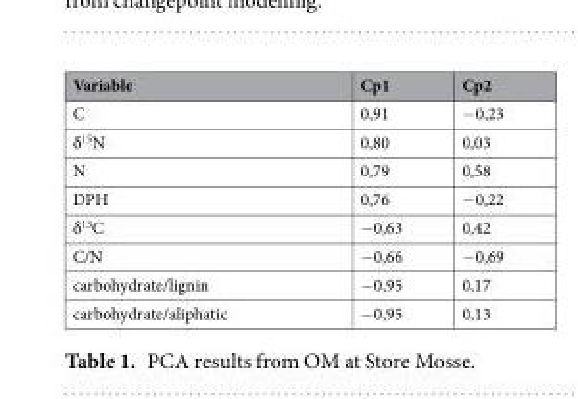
<table><thead><tr><td>Variable</td><td>Cp1</td><td>Cp2</td></tr></thead><tbody><tr><td>C</td><td>0,91</td><td>−0,23</td></tr><tr><td>δ<sup>15</sup>N</td><td>0,80</td><td>0,03</td></tr><tr><td>N</td><td>0,79</td><td>0,58</td></tr><tr><td>DPH</td><td>0,76</td><td>−0,22</td></tr><tr><td>δ<sup>13</sup>C</td><td>−0,63</td><td>0,42</td></tr><tr><td>C/N</td><td>−0,66</td><td>−0,69</td></tr><tr><td>carbohydrate/lignin</td><td>−0,95</td><td>0,17</td></tr><tr><td>carbohydrate/aliphatic</td><td>−0,95</td><td>0,13</td></tr></tbody></table>